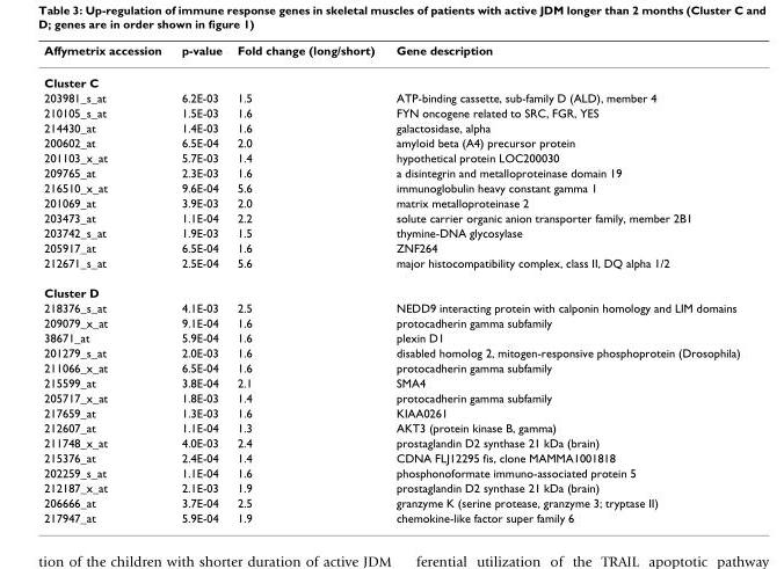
<table><thead><tr><td>Affymetrix accession</td><td>p-value</td><td>Fold change (long/short)</td><td>Gene description</td></tr></thead><tbody><tr><td colspan="4">Cluster C</td></tr><tr><td>203981_s_at</td><td>6.2E-03</td><td>1.5</td><td>ATP-binding cassette, sub-family D (ALD), member 4</td></tr><tr><td>210105_s_at</td><td>1.5E-03</td><td>1.6</td><td>FYN oncogene related to SRC, FGR, YES</td></tr><tr><td>214430_at</td><td>1.4E-03</td><td>1.6</td><td>galactosidase, alpha</td></tr><tr><td>200602_at</td><td>6.5E-04</td><td>2.0</td><td>amyloid beta (A4) precursor protein</td></tr><tr><td>201103_x_at</td><td>5.7E-03</td><td>1.4</td><td>hypothetical protein LOC200030</td></tr><tr><td>209765_at</td><td>2.3E-03</td><td>1.6</td><td>a disintegrin and metalloproteinase domain 19</td></tr><tr><td>216510_x_at</td><td>9.6E-04</td><td>5.6</td><td>immunoglobulin heavy constant gamma 1</td></tr><tr><td>201069_at</td><td>3.9E-03</td><td>2.0</td><td>matrix metalloproteinase 2</td></tr><tr><td>203473_at</td><td>1.1E-04</td><td>2.2</td><td>solute carrier organic anion transporter family, member 2B1</td></tr><tr><td>203742_s_at</td><td>1.9E-03</td><td>1.5</td><td>thymine-DNA glycosylase</td></tr><tr><td>205917_at</td><td>6.5E-04</td><td>1.6</td><td>ZNF264</td></tr><tr><td>212671_s_at</td><td>2.5E-04</td><td>5.6</td><td>major histocompatibility complex, class II, DQ alpha 1/2</td></tr><tr><td colspan="4">Cluster D</td></tr><tr><td>218376_s_at</td><td>4.1E-03</td><td>2.5</td><td>NEDD9 interacting protein with calponin homology and LIM domains</td></tr><tr><td>209079_x_at</td><td>9.1E-04</td><td>1.6</td><td>protocadherin gamma subfamily</td></tr><tr><td>38671_at</td><td>5.9E-04</td><td>1.6</td><td>plexin D1</td></tr><tr><td>201279_s_at</td><td>2.0E-03</td><td>1.6</td><td>disabled homolog 2, mitogen-responsive phosphoprotein (Drosophila)</td></tr><tr><td>211066_x_at</td><td>6.5E-04</td><td>1.6</td><td>protocadherin gamma subfamily</td></tr><tr><td>215599_at</td><td>3.8E-04</td><td>2.1</td><td>SMA4</td></tr><tr><td>205717_x_at</td><td>1.8E-03</td><td>1.4</td><td>protocadherin gamma subfamily</td></tr><tr><td>217659_at</td><td>1.3E-03</td><td>1.6</td><td>KIAA0261</td></tr><tr><td>212607_at</td><td>1.1E-04</td><td>1.3</td><td>AKT3 (protein kinase B, gamma)</td></tr><tr><td>211748_x_at</td><td>4.0E-03</td><td>2.4</td><td>prostaglandin D2 synthase 21 kDa (brain)</td></tr><tr><td>215376_at</td><td>2.4E-04</td><td>1.4</td><td>CDNA FLJ12295 fis, clone MAMMA1001818</td></tr><tr><td>202259_s_at</td><td>1.1E-04</td><td>1.6</td><td>phosphonoformate immuno-associated protein 5</td></tr><tr><td>212187_x_at</td><td>2.1E-03</td><td>1.9</td><td>prostaglandin D2 synthase 21 kDa (brain)</td></tr><tr><td>206666_at</td><td>3.7E-04</td><td>2.5</td><td>granzyme K (serine protease, granzyme 3; tryptase II)</td></tr><tr><td>217947_at</td><td>5.9E-04</td><td>1.9</td><td>chemokine-like factor super family 6</td></tr></tbody></table>